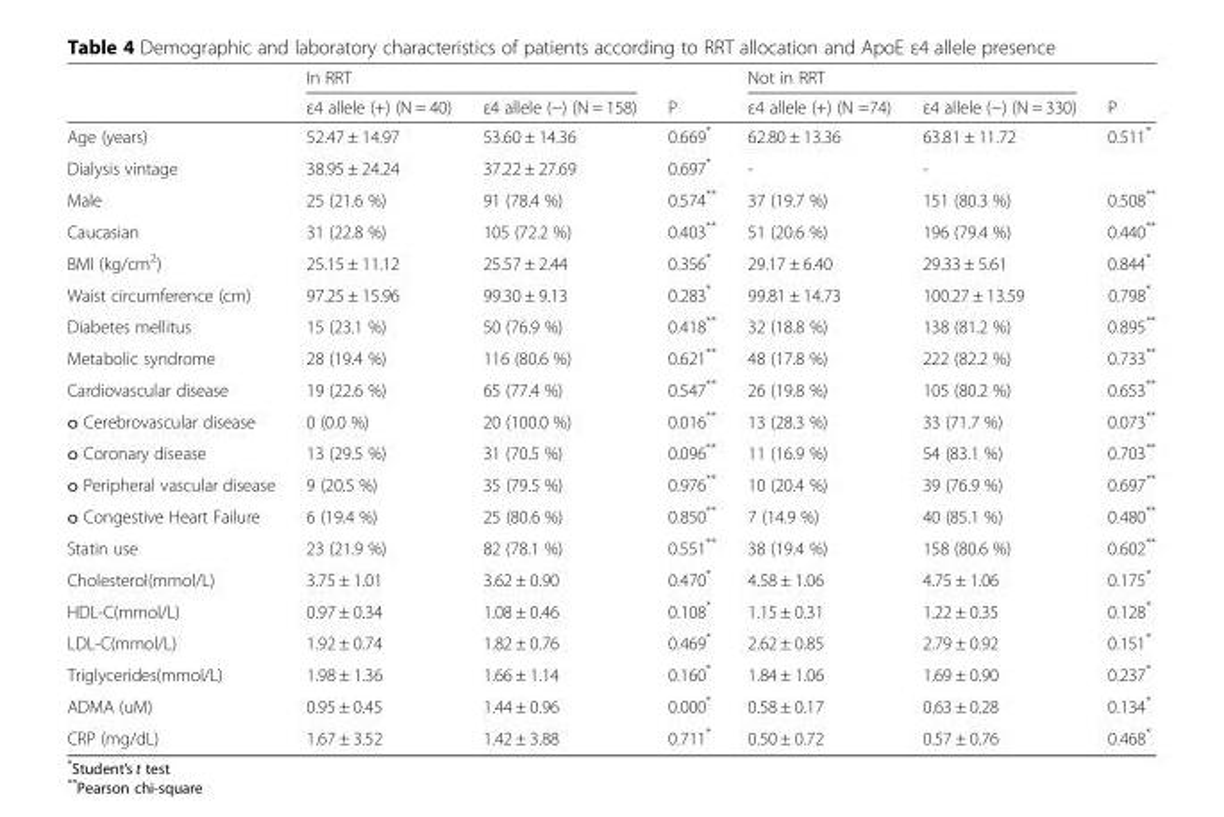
<table><thead><tr><td rowspan="2"></td><td colspan="2">In RRT</td><td rowspan="2">P</td><td colspan="2">Not in RRT</td><td rowspan="2">P</td></tr><tr><td>ε4 allele (+) (N = 40)</td><td>ε4 allele (−) (N = 158)</td><td>ε4 allele (+) (N =74)</td><td>ε4 allele (−) (N = 330)</td></tr></thead><tbody><tr><td>Age (years)</td><td>52.47 ± 14.97</td><td>53.60 ± 14.36</td><td>0.669*</td><td>62.80 ± 13.36</td><td>63.81 ± 11.72</td><td>0.511*</td></tr><tr><td>Dialysis vintage</td><td>38.95 ± 24.24</td><td>37.22 ± 27.69</td><td>0.697*</td><td>-</td><td>-</td><td></td></tr><tr><td>Male</td><td>25 (21.6 %)</td><td>91 (78.4 %)</td><td>0.574**</td><td>37 (19.7 %)</td><td>151 (80.3 %)</td><td>0.508**</td></tr><tr><td>Caucasian</td><td>31 (22.8 %)</td><td>105 (72.2 %)</td><td>0.403**</td><td>51 (20.6 %)</td><td>196 (79.4 %)</td><td>0.440**</td></tr><tr><td>BMI (kg/cm<sup>2</sup>)</td><td>25.15 ± 11.12</td><td>25.57 ± 2.44</td><td>0.356*</td><td>29.17 ± 6.40</td><td>29.33 ± 5.61</td><td>0.844*</td></tr><tr><td>Waist circumference (cm)</td><td>97.25 ± 15.96</td><td>99.30 ± 9.13</td><td>0.283*</td><td>99.81 ± 14.73</td><td>100.27 ± 13.59</td><td>0.798*</td></tr><tr><td>Diabetes mellitus</td><td>15 (23.1 %)</td><td>50 (76.9 %)</td><td>0.418**</td><td>32 (18.8 %)</td><td>138 (81.2 %)</td><td>0.895**</td></tr><tr><td>Metabolic syndrome</td><td>28 (19.4 %)</td><td>116 (80.6 %)</td><td>0.621**</td><td>48 (17.8 %)</td><td>222 (82.2 %)</td><td>0.733**</td></tr><tr><td>Cardiovascular disease</td><td>19 (22.6 %)</td><td>65 (77.4 %)</td><td>0.547**</td><td>26 (19.8 %)</td><td>105 (80.2 %)</td><td>0.653**</td></tr><tr><td>o Cerebrovascular disease</td><td>0 (0.0 %)</td><td>20 (100.0 %)</td><td>0.016**</td><td>13 (28.3 %)</td><td>33 (71.7 %)</td><td>0.073**</td></tr><tr><td>o Coronary disease</td><td>13 (29.5 %)</td><td>31 (70.5 %)</td><td>0.096**</td><td>11 (16.9 %)</td><td>54 (83.1 %)</td><td>0.703**</td></tr><tr><td>o Peripheral vascular disease</td><td>9 (20.5 %)</td><td>35 (79.5 %)</td><td>0.976**</td><td>10 (20.4 %)</td><td>39 (76.9 %)</td><td>0.697**</td></tr><tr><td>o Congestive Heart Failure</td><td>6 (19.4 %)</td><td>25 (80.6 %)</td><td>0.850**</td><td>7 (14.9 %)</td><td>40 (85.1 %)</td><td>0.480**</td></tr><tr><td>Statin use</td><td>23 (21.9 %)</td><td>82 (78.1 %)</td><td>0.551**</td><td>38 (19.4 %)</td><td>158 (80.6 %)</td><td>0.602**</td></tr><tr><td>Cholesterol(mmol/L)</td><td>3.75 ± 1.01</td><td>3.62 ± 0.90</td><td>0.470*</td><td>4.58 ± 1.06</td><td>4.75 ± 1.06</td><td>0.175*</td></tr><tr><td>HDL-C(mmol/L)</td><td>0.97 ± 0.34</td><td>1.08 ± 0.46</td><td>0.108*</td><td>1.15 ± 0.31</td><td>1.22 ± 0.35</td><td>0.128*</td></tr><tr><td>LDL-C(mmol/L)</td><td>1.92 ± 0.74</td><td>1.82 ± 0.76</td><td>0.469*</td><td>2.62 ± 0.85</td><td>2.79 ± 0.92</td><td>0.151*</td></tr><tr><td>Triglycerides(mmol/L)</td><td>1.98 ± 1.36</td><td>1.66 ± 1.14</td><td>0.160*</td><td>1.84 ± 1.06</td><td>1.69 ± 0.90</td><td>0.237*</td></tr><tr><td>ADMA (uM)</td><td>0.95 ± 0.45</td><td>1.44 ± 0.96</td><td>0.000*</td><td>0.58 ± 0.17</td><td>0.63 ± 0.28</td><td>0.134*</td></tr><tr><td>CRP (mg/dL)</td><td>1.67 ± 3.52</td><td>1.42 ± 3.88</td><td>0.711*</td><td>0.50 ± 0.72</td><td>0.57 ± 0.76</td><td>0.468*</td></tr></tbody></table>